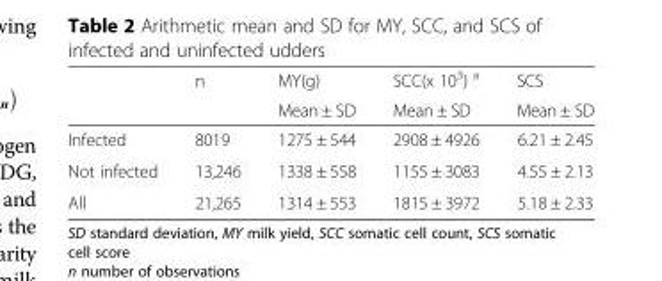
<table><thead><tr><td rowspan="2"></td><td rowspan="2">n</td><td rowspan="2">MY(g) Mean ± SD</td><td rowspan="2">SCC(x 10<sup>3</sup>) <sup>a</sup> Mean ± SD</td><td rowspan="2">SCS Mean ± SD</td></tr><tr></tr></thead><tbody><tr><td>Infected</td><td>8019</td><td>1275 ± 544</td><td>2908 ± 4926</td><td>6.21 ± 2.45</td></tr><tr><td>Not infected</td><td>13,246</td><td>1338 ± 558</td><td>1155 ± 3083</td><td>4.55 ± 2.13</td></tr><tr><td>All</td><td>21,265</td><td>1314 ± 553</td><td>1815 ± 3972</td><td>5.18 ± 2.33</td></tr></tbody></table>